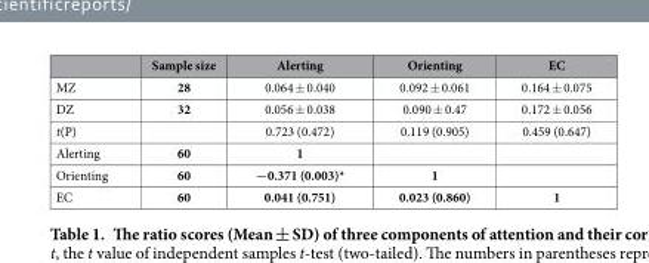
<table><thead><tr><td></td><td>Sample size</td><td>Alerting</td><td>Orienting</td><td>EC</td></tr></thead><tbody><tr><td>MZ</td><td>28</td><td>0.064 ± 0.040</td><td>0.092 ± 0.061</td><td>0.164 ± 0.075</td></tr><tr><td>DZ</td><td>32</td><td>0.056 ± 0.038</td><td>0.090 ± 0.47</td><td>0.172 ± 0.056</td></tr><tr><td>t(P)</td><td></td><td>0.723 (0.472)</td><td>0.119 (0.905)</td><td>0.459 (0.647)</td></tr><tr><td>Alerting</td><td>60</td><td>1</td><td></td><td></td></tr><tr><td>Orienting</td><td>60</td><td>−0.371 (0.003)*</td><td>1</td><td></td></tr><tr><td>EC</td><td>60</td><td>0.041 (0.751)</td><td>0.023 (0.860)</td><td>1</td></tr></tbody></table>